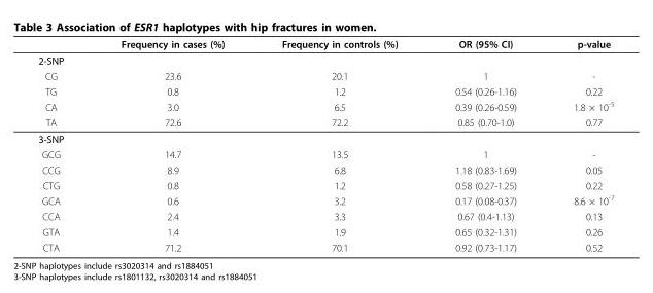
<table><thead><tr><td></td><td>Frequency in cases (%)</td><td>Frequency in controls (%)</td><td>OR (95% CI)</td><td>p-value</td></tr></thead><tbody><tr><td colspan="5">2-SNP</td></tr><tr><td>CG</td><td>23.6</td><td>20.1</td><td>1</td><td>-</td></tr><tr><td>TG</td><td>0.8</td><td>1.2</td><td>0.54 (0.26-1.16)</td><td>0.22</td></tr><tr><td>CA</td><td>3.0</td><td>6.5</td><td>0.39 (0.26-0.59)</td><td>1.8 × 10<sup>-5</sup></td></tr><tr><td>TA</td><td>72.6</td><td>72.2</td><td>0.85 (0.70-1.0)</td><td>0.77</td></tr><tr><td colspan="5">3-SNP</td></tr><tr><td>GCG</td><td>14.7</td><td>13.5</td><td>1</td><td>-</td></tr><tr><td>CCG</td><td>8.9</td><td>6.8</td><td>1.18 (0.83-1.69)</td><td>0.05</td></tr><tr><td>CTG</td><td>0.8</td><td>1.2</td><td>0.58 (0.27-1.25)</td><td>0.22</td></tr><tr><td>GCA</td><td>0.6</td><td>3.2</td><td>0.17 (0.08-0.37)</td><td>8.6 × 10<sup>-7</sup></td></tr><tr><td>CCA</td><td>2.4</td><td>3.3</td><td>0.67 (0.4-1.13)</td><td>0.13</td></tr><tr><td>GTA</td><td>1.4</td><td>1.9</td><td>0.65 (0.32-1.31)</td><td>0.26</td></tr><tr><td>CTA</td><td>71.2</td><td>70.1</td><td>0.92 (0.73-1.17)</td><td>0.52</td></tr></tbody></table>